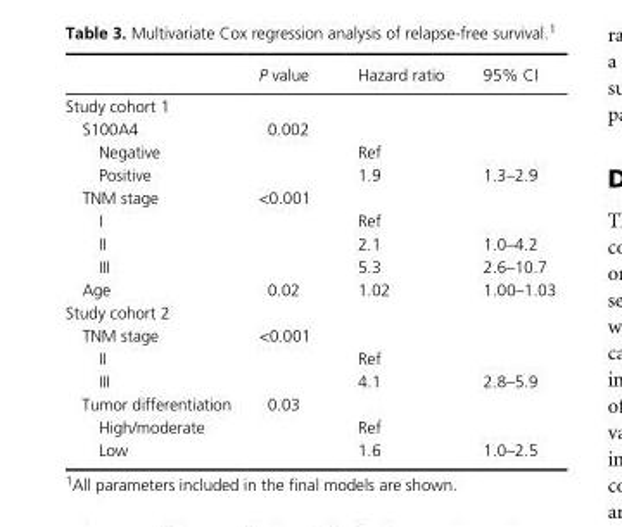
<table><thead><tr><td></td><td>P value</td><td>Hazard ratio</td><td>95% CI</td></tr></thead><tbody><tr><td colspan="4">Study cohort 1</td></tr><tr><td>S100A4</td><td>0.002</td><td></td><td></td></tr><tr><td>Negative</td><td></td><td>Ref</td><td></td></tr><tr><td>Positive</td><td></td><td>1.9</td><td>1.3–2.9</td></tr><tr><td>TNM stage</td><td>&lt;0.001</td><td></td><td></td></tr><tr><td>I</td><td></td><td>Ref</td><td></td></tr><tr><td>II</td><td></td><td>2.1</td><td>1.0–4.2</td></tr><tr><td>III</td><td></td><td>5.3</td><td>2.6–10.7</td></tr><tr><td>Age</td><td>0.02</td><td>1.02</td><td>1.00–1.03</td></tr><tr><td colspan="4">Study cohort 2</td></tr><tr><td>TNM stage</td><td>&lt;0.001</td><td></td><td></td></tr><tr><td>II</td><td></td><td>Ref</td><td></td></tr><tr><td>III</td><td></td><td>4.1</td><td>2.8–5.9</td></tr><tr><td>Tumor differentiation</td><td>0.03</td><td></td><td></td></tr><tr><td>High/moderate</td><td></td><td>Ref</td><td></td></tr><tr><td>Low</td><td></td><td>1.6</td><td>1.0–2.5</td></tr></tbody></table>